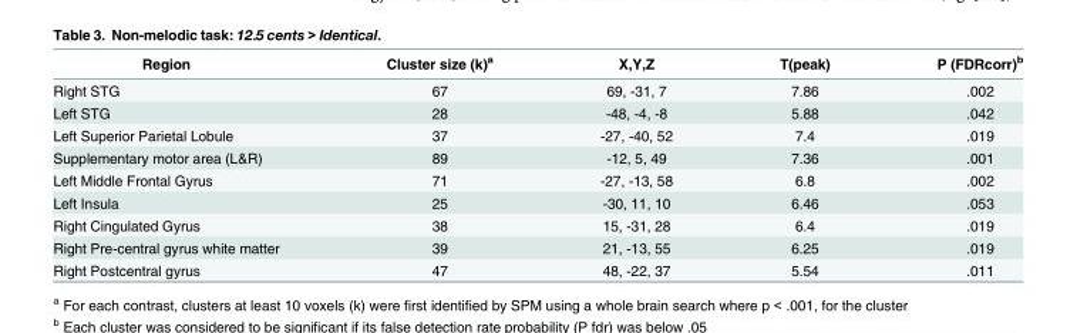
<table><thead><tr><td>Region</td><td>Cluster size (k)<sup>a</sup></td><td>X,Y,Z</td><td>T(peak)</td><td>P (FDRcorr)<sup>b</sup></td></tr></thead><tbody><tr><td>Right STG</td><td>67</td><td>69, -31, 7</td><td>7.86</td><td>.002</td></tr><tr><td>Left STG</td><td>28</td><td>-48, -4, -8</td><td>5.88</td><td>.042</td></tr><tr><td>Left Superior Parietal Lobule</td><td>37</td><td>-27, -40, 52</td><td>7.4</td><td>.019</td></tr><tr><td>Supplementary motor area (L&amp;R)</td><td>89</td><td>-12, 5, 49</td><td>7.36</td><td>.001</td></tr><tr><td>Left Middle Frontal Gyrus</td><td>71</td><td>-27, -13, 58</td><td>6.8</td><td>.002</td></tr><tr><td>Left Insula</td><td>25</td><td>-30, 11, 10</td><td>6.46</td><td>.053</td></tr><tr><td>Right Cingulated Gyrus</td><td>38</td><td>15, -31, 28</td><td>6.4</td><td>.019</td></tr><tr><td>Right Pre-central gyrus white matter</td><td>39</td><td>21, -13, 55</td><td>6.25</td><td>.019</td></tr><tr><td>Right Postcentral gyrus</td><td>47</td><td>48, -22, 37</td><td>5.54</td><td>.011</td></tr></tbody></table>